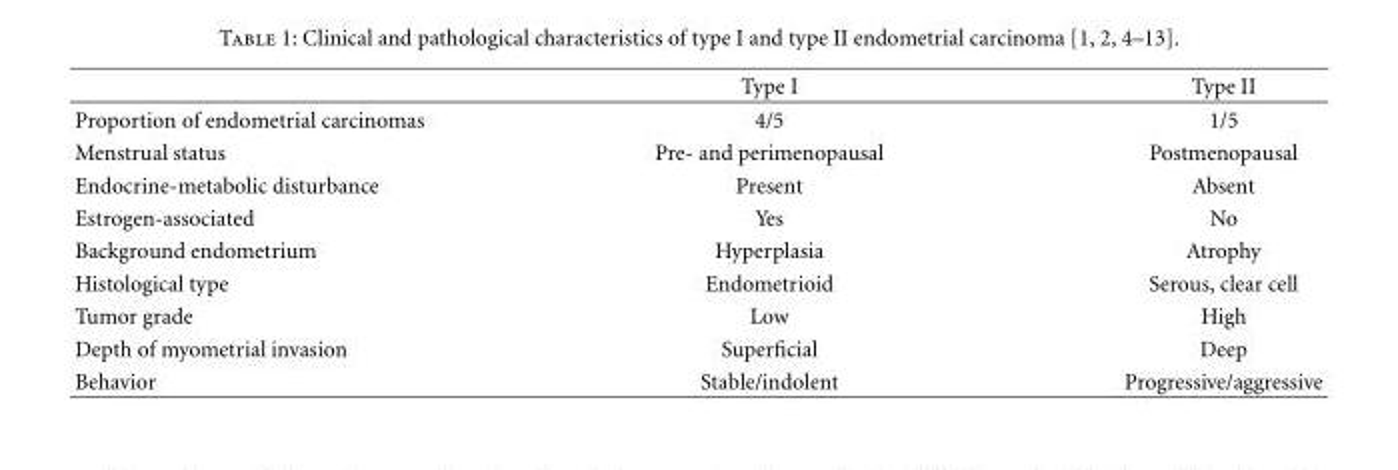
<table><thead><tr><td></td><td>Type I</td><td>Type II</td></tr></thead><tbody><tr><td>Proportion of endometrial carcinomas</td><td>4/5</td><td>1/5</td></tr><tr><td>Menstrual status</td><td>Pre- and perimenopausal</td><td>Postmenopausal</td></tr><tr><td>Endocrine-metabolic disturbance</td><td>Present</td><td>Absent</td></tr><tr><td>Estrogen-associated</td><td>Yes</td><td>No</td></tr><tr><td>Background endometrium</td><td>Hyperplasia</td><td>Atrophy</td></tr><tr><td>Histological type</td><td>Endometrioid</td><td>Serous, clear cell</td></tr><tr><td>Tumor grade</td><td>Low</td><td>High</td></tr><tr><td>Depth of myometrial invasion</td><td>Superficial</td><td>Deep</td></tr><tr><td>Behavior</td><td>Stable/indolent</td><td>Progressive/aggressive</td></tr></tbody></table>